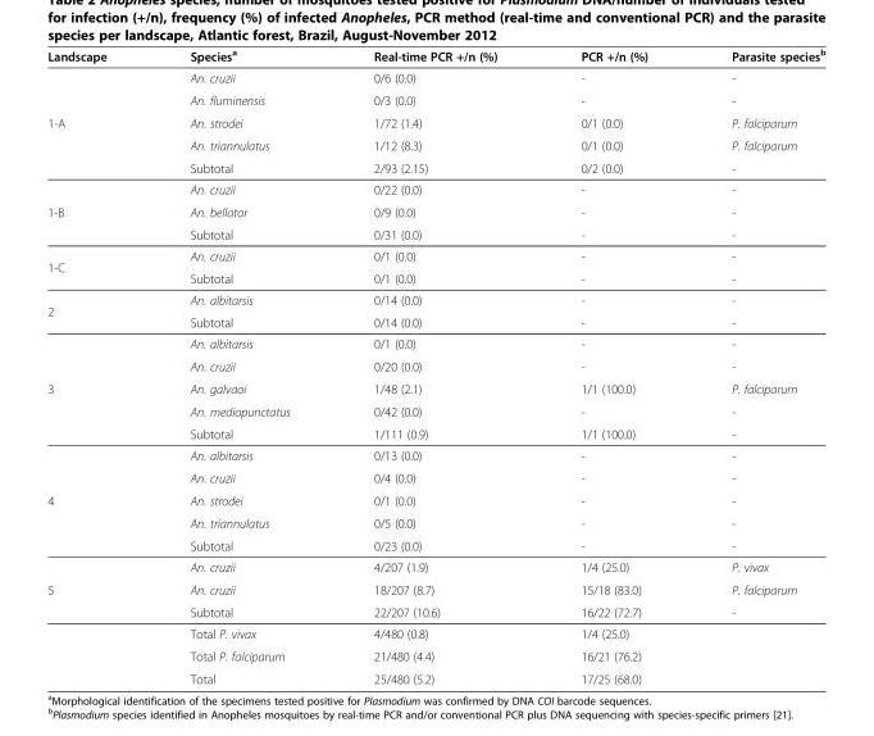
<table><thead><tr><td>Landscape</td><td>Species<sup>a</sup></td><td>Real-time PCR +/n (%)</td><td>PCR +/n (%)</td><td>Parasite species<sup>b</sup></td></tr></thead><tbody><tr><td rowspan="5">1-A</td><td>An. cruzii</td><td>0/6 (0.0)</td><td>-</td><td>-</td></tr><tr><td>An. fluminensis</td><td>0/3 (0.0)</td><td>-</td><td>-</td></tr><tr><td>An. strodei</td><td>1/72 (1.4)</td><td>0/1 (0.0)</td><td>P. falciparum</td></tr><tr><td>An. triannulatus</td><td>1/12 (8.3)</td><td>0/1 (0.0)</td><td>P. falciparum</td></tr><tr><td>Subtotal</td><td>2/93 (2.15)</td><td>0/2 (0.0)</td><td>-</td></tr><tr><td rowspan="3">1-B</td><td>An. cruzii</td><td>0/22 (0.0)</td><td>-</td><td>-</td></tr><tr><td>An. bellator</td><td>0/9 (0.0)</td><td>-</td><td>-</td></tr><tr><td>Subtotal</td><td>0/31 (0.0)</td><td>-</td><td>-</td></tr><tr><td rowspan="2">1-C</td><td>An. cruzii</td><td>0/1 (0.0)</td><td>-</td><td>-</td></tr><tr><td>Subtotal</td><td>0/1 (0.0)</td><td>-</td><td>-</td></tr><tr><td rowspan="2">2</td><td>An. albitarsis</td><td>0/14 (0.0)</td><td>-</td><td>-</td></tr><tr><td>Subtotal</td><td>0/14 (0.0)</td><td>-</td><td>-</td></tr><tr><td rowspan="5">3</td><td>An. albitarsis</td><td>0/1 (0.0)</td><td>-</td><td>-</td></tr><tr><td>An. cruzii</td><td>0/20 (0.0)</td><td>-</td><td>-</td></tr><tr><td>An. galvaoi</td><td>1/48 (2.1)</td><td>1/1 (100.0)</td><td>P. falciparum</td></tr><tr><td>An. mediopunctatus</td><td>0/42 (0.0)</td><td>-</td><td>-</td></tr><tr><td>Subtotal</td><td>1/111 (0.9)</td><td>1/1 (100.0)</td><td>-</td></tr><tr><td rowspan="5">4</td><td>An. albitarsis</td><td>0/13 (0.0)</td><td>-</td><td>-</td></tr><tr><td>An. cruzii</td><td>0/4 (0.0)</td><td>-</td><td>-</td></tr><tr><td>An. strodei</td><td>0/1 (0.0)</td><td>-</td><td>-</td></tr><tr><td>An. triannulatus</td><td>0/5 (0.0)</td><td>-</td><td>-</td></tr><tr><td>Subtotal</td><td>0/23 (0.0)</td><td>-</td><td>-</td></tr><tr><td rowspan="6">5</td><td>An. cruzii</td><td>4/207 (1.9)</td><td>1/4 (25.0)</td><td>P. vivax</td></tr><tr><td>An. cruzii</td><td>18/207 (8.7)</td><td>15/18 (83.0)</td><td>P. falciparum</td></tr><tr><td>Subtotal</td><td>22/207 (10.6)</td><td>16/22 (72.7)</td><td>-</td></tr><tr><td>Total P. vivax</td><td>4/480 (0.8)</td><td>1/4 (25.0)</td><td></td></tr><tr><td>Total P. falciparum</td><td>21/480 (4.4)</td><td>16/21 (76.2)</td><td></td></tr><tr><td>Total</td><td>25/480 (5.2)</td><td>17/25 (68.0)</td><td></td></tr></tbody></table>